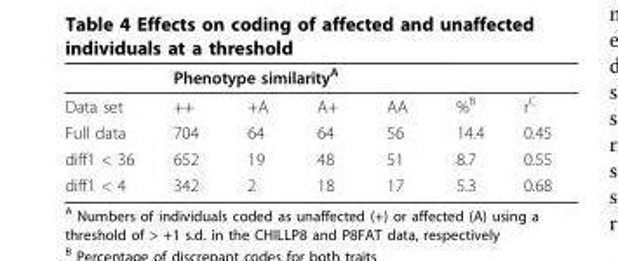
<table><thead><tr><td rowspan="2">Data set</td><td colspan="4">Phenotype similarity<sup>A</sup></td><td rowspan="2">%<sup>B</sup></td><td rowspan="2">r<sup>C</sup></td></tr><tr><td>++</td><td>+A</td><td>A+</td><td>AA</td></tr></thead><tbody><tr><td>Full data</td><td>704</td><td>64</td><td>64</td><td>56</td><td>14.4</td><td>0.45</td></tr><tr><td>diff1 &lt; 36</td><td>652</td><td>19</td><td>48</td><td>51</td><td>8.7</td><td>0.55</td></tr><tr><td>diff1 &lt; 4</td><td>342</td><td>2</td><td>18</td><td>17</td><td>5.3</td><td>0.68</td></tr></tbody></table>